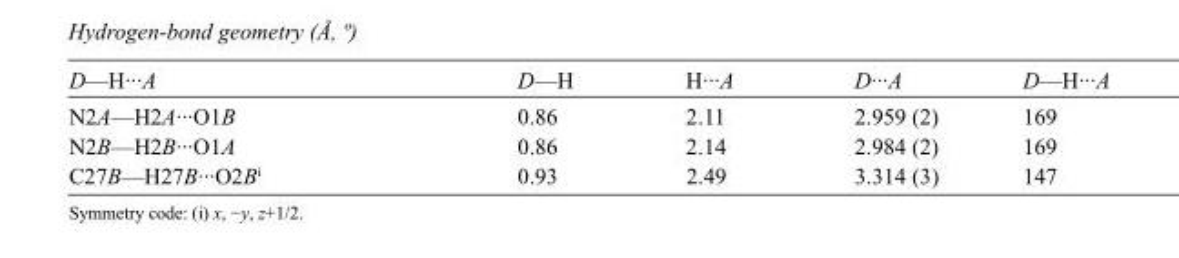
<table><tbody><tr><td>D—H···A</td><td>D—H</td><td>H···A</td><td>D···A</td><td>D—H···A</td></tr><tr><td>N2A—H2A···O1B</td><td>0.86</td><td>2.11</td><td>2.959 (2)</td><td>169</td></tr><tr><td>N2B—H2B···O1A</td><td>0.86</td><td>2.14</td><td>2.984 (2)</td><td>169</td></tr><tr><td>C27B—H27B···O2B<sup>i</sup></td><td>0.93</td><td>2.49</td><td>3.314 (3)</td><td>147</td></tr></tbody></table>